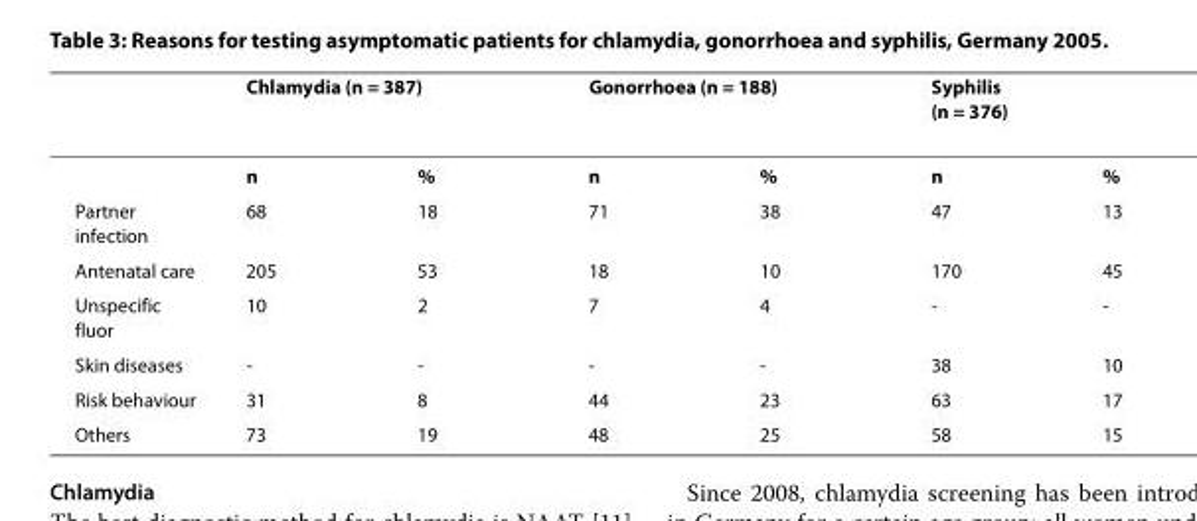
<table><thead><tr><td rowspan="2"></td><td colspan="2">Chlamydia (n = 387)</td><td colspan="2">Gonorrhoea (n = 188)</td><td colspan="2">Syphilis (n = 376)</td></tr><tr><td>n</td><td>%</td><td>n</td><td>%</td><td>n</td><td>%</td></tr></thead><tbody><tr><td>Partner infection</td><td>68</td><td>18</td><td>71</td><td>38</td><td>47</td><td>13</td></tr><tr><td>Antenatal care</td><td>205</td><td>53</td><td>18</td><td>10</td><td>170</td><td>45</td></tr><tr><td>Unspecific fluor</td><td>10</td><td>2</td><td>7</td><td>4</td><td>-</td><td>-</td></tr><tr><td>Skin diseases</td><td>-</td><td>-</td><td>-</td><td>-</td><td>38</td><td>10</td></tr><tr><td>Risk behaviour</td><td>31</td><td>8</td><td>44</td><td>23</td><td>63</td><td>17</td></tr><tr><td>Others</td><td>73</td><td>19</td><td>48</td><td>25</td><td>58</td><td>15</td></tr></tbody></table>